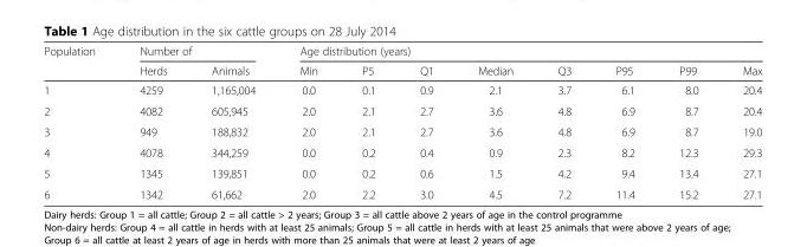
<table><thead><tr><td rowspan="2">Population</td><td colspan="2">Number of</td><td colspan="8">Age distribution (years)</td></tr><tr><td>Herds</td><td>Animals</td><td>Min</td><td>P5</td><td>Q1</td><td>Median</td><td>Q3</td><td>P95</td><td>P99</td><td>Max</td></tr></thead><tbody><tr><td>1</td><td>4259</td><td>1,165,004</td><td>0.0</td><td>0.1</td><td>0.9</td><td>2.1</td><td>3.7</td><td>6.1</td><td>8.0</td><td>20.4</td></tr><tr><td>2</td><td>4082</td><td>605,945</td><td>2.0</td><td>2.1</td><td>2.7</td><td>3.6</td><td>4.8</td><td>6.9</td><td>8.7</td><td>20.4</td></tr><tr><td>3</td><td>949</td><td>188,832</td><td>2.0</td><td>2.1</td><td>2.7</td><td>3.6</td><td>4.8</td><td>6.9</td><td>8.7</td><td>19.0</td></tr><tr><td>4</td><td>4078</td><td>344,259</td><td>0.0</td><td>0.2</td><td>0.4</td><td>0.9</td><td>2.3</td><td>8.2</td><td>12.3</td><td>29.3</td></tr><tr><td>5</td><td>1345</td><td>139,851</td><td>0.0</td><td>0.2</td><td>0.6</td><td>1.5</td><td>4.2</td><td>9.4</td><td>13.4</td><td>27.1</td></tr><tr><td>6</td><td>1342</td><td>61,662</td><td>2.0</td><td>2.2</td><td>3.0</td><td>4.5</td><td>7.2</td><td>11.4</td><td>15.2</td><td>27.1</td></tr></tbody></table>